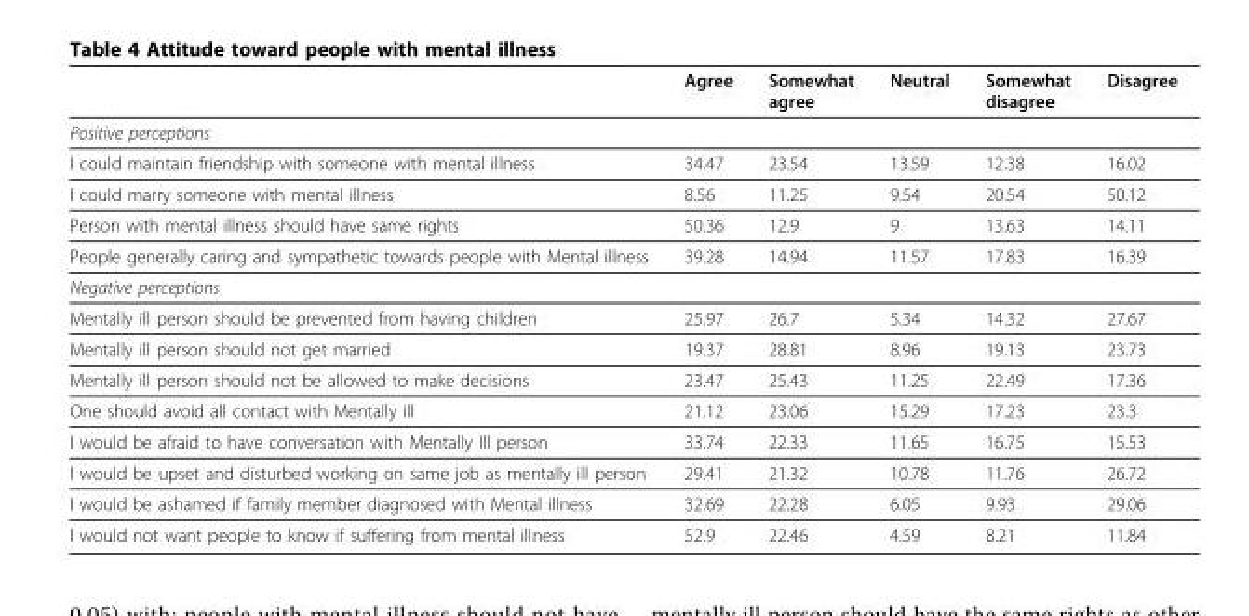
<table><thead><tr><td></td><td>Agree</td><td>Somewhat agree</td><td>Neutral</td><td>Somewhat disagree</td><td>Disagree</td></tr></thead><tbody><tr><td colspan="6">Positive perceptions</td></tr><tr><td>I could maintain friendship with someone with mental illness</td><td>34.47</td><td>23.54</td><td>13.59</td><td>12.38</td><td>16.02</td></tr><tr><td>I could marry someone with mental illness</td><td>8.56</td><td>11.25</td><td>9.54</td><td>20.54</td><td>50.12</td></tr><tr><td>Person with mental illness should have same rights</td><td>50.36</td><td>12.9</td><td>9</td><td>13.63</td><td>14.11</td></tr><tr><td>People generally caring and sympathetic towards people with Mental illness</td><td>39.28</td><td>14.94</td><td>11.57</td><td>17.83</td><td>16.39</td></tr><tr><td colspan="6">Negative perceptions</td></tr><tr><td>Mentally ill person should be prevented from having children</td><td>25.97</td><td>26.7</td><td>5.34</td><td>14.32</td><td>27.67</td></tr><tr><td>Mentally ill person should not get married</td><td>19.37</td><td>28.81</td><td>8.96</td><td>19.13</td><td>23.73</td></tr><tr><td>Mentally ill person should not be allowed to make decisions</td><td>23.47</td><td>25.43</td><td>11.25</td><td>22.49</td><td>17.36</td></tr><tr><td>One should avoid all contact with Mentally ill</td><td>21.12</td><td>23.06</td><td>15.29</td><td>17.23</td><td>23.3</td></tr><tr><td>I would be afraid to have conversation with Mentally Ill person</td><td>33.74</td><td>22.33</td><td>11.65</td><td>16.75</td><td>15.53</td></tr><tr><td>I would be upset and disturbed working on same job as mentally ill person</td><td>29.41</td><td>21.32</td><td>10.78</td><td>11.76</td><td>26.72</td></tr><tr><td>I would be ashamed if family member diagnosed with Mental illness</td><td>32.69</td><td>22.28</td><td>6.05</td><td>9.93</td><td>29.06</td></tr><tr><td>I would not want people to know if suffering from mental illness</td><td>52.9</td><td>22.46</td><td>4.59</td><td>8.21</td><td>11.84</td></tr></tbody></table>